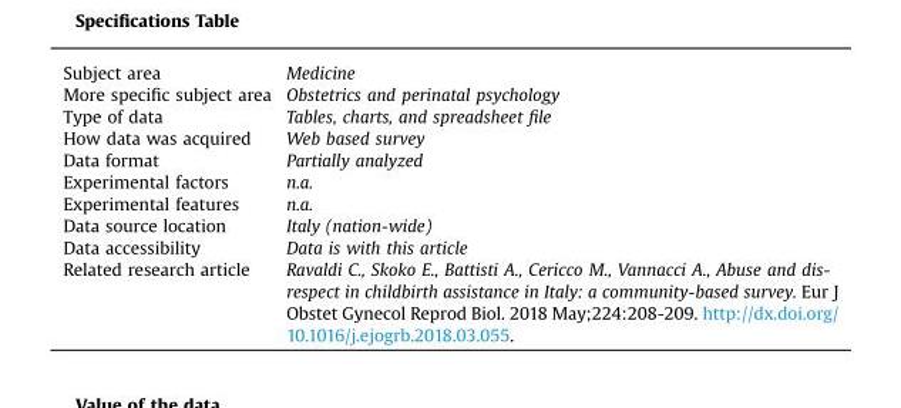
<table><tbody><tr><td>Subject area</td><td>Medicine</td></tr><tr><td>More specific subject area</td><td>Obstetrics and perinatal psychology</td></tr><tr><td>Type of data</td><td>Tables, charts, and spreadsheet file</td></tr><tr><td>How data was acquired</td><td>Web based survey</td></tr><tr><td>Data format</td><td>Partially analyzed</td></tr><tr><td>Experimental factors</td><td>n.a.</td></tr><tr><td>Experimental features</td><td>n.a.</td></tr><tr><td>Data source location</td><td>Italy (nation-wide)</td></tr><tr><td>Data accessibility</td><td>Data is with this article</td></tr><tr><td>Related research article</td><td>Ravaldi C., Skoko E., Battisti A., Cericco M., Vannacci A., Abuse and dis- respect in childbirth assistance in Italy: a community-based survey. Eur J Obstet Gynecol Reprod Biol. 2018 May;224:208-209. http://dx.doi.org/ 10.1016/j.ejogrb.2018.03.055.</td></tr></tbody></table>